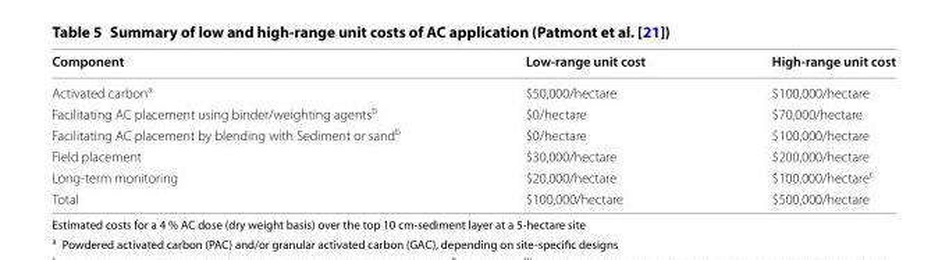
<table><thead><tr><td>Component</td><td>Low‑range unit cost</td><td>High‑range unit cost</td></tr></thead><tbody><tr><td>Activated carbon<sup>a</sup></td><td>$50,000/hectare</td><td>$100,000/hectare</td></tr><tr><td>Facilitating AC placement using binder/weighting agents<sup>b</sup></td><td>$0/hectare</td><td>$70,000/hectare</td></tr><tr><td>Facilitating AC placement by blending with Sediment or sand<sup>b</sup></td><td>$0/hectare</td><td>$100,000/hectare</td></tr><tr><td>Field placement</td><td>$30,000/hectare</td><td>$200,000/hectare</td></tr><tr><td>Long-term monitoring</td><td>$20,000/hectare</td><td>$100,000/hectare<sup>c</sup></td></tr><tr><td>Total</td><td>$100,000/hectare</td><td>$500,000/hectare</td></tr></tbody></table>